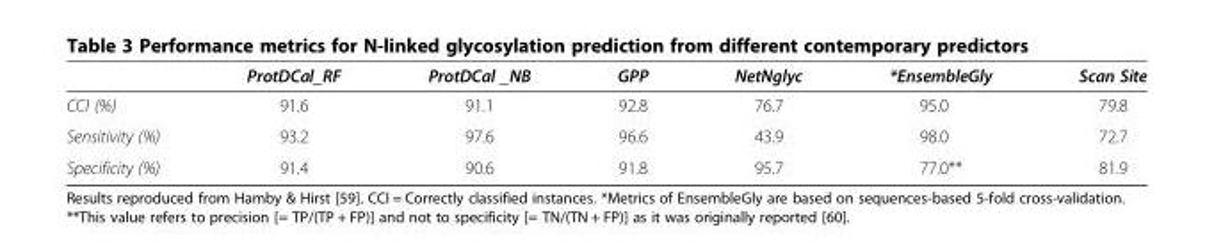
<table><thead><tr><td></td><td>ProtDCal_RF</td><td>ProtDCal _NB</td><td>GPP</td><td>NetNglyc</td><td>*EnsembleGly</td><td>Scan Site</td></tr></thead><tbody><tr><td>CCI (%)</td><td>91.6</td><td>91.1</td><td>92.8</td><td>76.7</td><td>95.0</td><td>79.8</td></tr><tr><td>Sensitivity (%)</td><td>93.2</td><td>97.6</td><td>96.6</td><td>43.9</td><td>98.0</td><td>72.7</td></tr><tr><td>Specificity (%)</td><td>91.4</td><td>90.6</td><td>91.8</td><td>95.7</td><td>77.0**</td><td>81.9</td></tr></tbody></table>